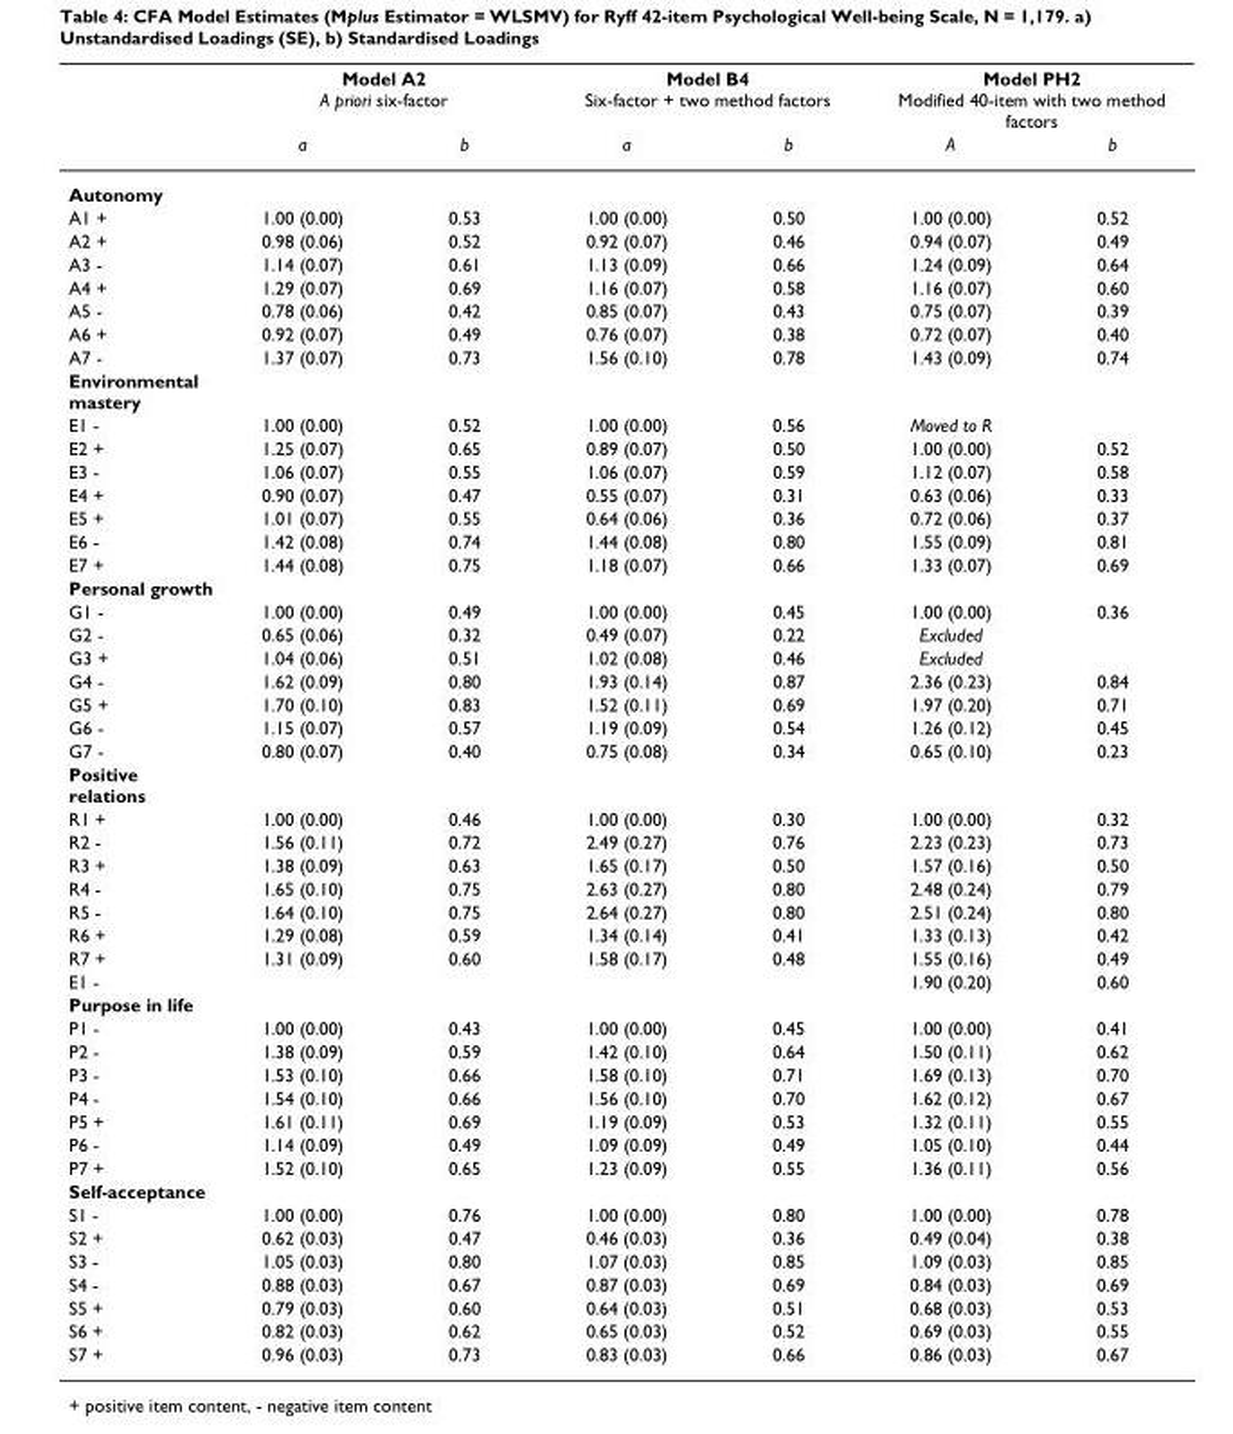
<table><thead><tr><td rowspan="2"></td><td colspan="2">Model A2 A priori six-factor</td><td colspan="2">Model B4 Six-factor + two method factors</td><td colspan="2">Model PH2 Modified 40-item with two method factors</td></tr><tr><td>a</td><td>b</td><td>a</td><td>b</td><td>A</td><td>b</td></tr></thead><tbody><tr><td colspan="7">Autonomy</td></tr><tr><td>A1 +</td><td>1.00 (0.00)</td><td>0.53</td><td>1.00 (0.00)</td><td>0.50</td><td>1.00 (0.00)</td><td>0.52</td></tr><tr><td>A2 +</td><td>0.98 (0.06)</td><td>0.52</td><td>0.92 (0.07)</td><td>0.46</td><td>0.94 (0.07)</td><td>0.49</td></tr><tr><td>A3 -</td><td>1.14 (0.07)</td><td>0.61</td><td>1.13 (0.09)</td><td>0.66</td><td>1.24 (0.09)</td><td>0.64</td></tr><tr><td>A4 +</td><td>1.29 (0.07)</td><td>0.69</td><td>1.16 (0.07)</td><td>0.58</td><td>1.16 (0.07)</td><td>0.60</td></tr><tr><td>A5 -</td><td>0.78 (0.06)</td><td>0.42</td><td>0.85 (0.07)</td><td>0.43</td><td>0.75 (0.07)</td><td>0.39</td></tr><tr><td>A6 +</td><td>0.92 (0.07)</td><td>0.49</td><td>0.76 (0.07)</td><td>0.38</td><td>0.72 (0.07)</td><td>0.40</td></tr><tr><td>A7 -</td><td>1.37 (0.07)</td><td>0.73</td><td>1.56 (0.10)</td><td>0.78</td><td>1.43 (0.09)</td><td>0.74</td></tr><tr><td colspan="7">Environmental mastery</td></tr><tr><td>E1 -</td><td>1.00 (0.00)</td><td>0.52</td><td>1.00 (0.00)</td><td>0.56</td><td>Moved to R</td><td></td></tr><tr><td>E2 +</td><td>1.25 (0.07)</td><td>0.65</td><td>0.89 (0.07)</td><td>0.50</td><td>1.00 (0.00)</td><td>0.52</td></tr><tr><td>E3 -</td><td>1.06 (0.07)</td><td>0.55</td><td>1.06 (0.07)</td><td>0.59</td><td>1.12 (0.07)</td><td>0.58</td></tr><tr><td>E4 +</td><td>0.90 (0.07)</td><td>0.47</td><td>0.55 (0.07)</td><td>0.31</td><td>0.63 (0.06)</td><td>0.33</td></tr><tr><td>E5 +</td><td>1.01 (0.07)</td><td>0.55</td><td>0.64 (0.06)</td><td>0.36</td><td>0.72 (0.06)</td><td>0.37</td></tr><tr><td>E6 -</td><td>1.42 (0.08)</td><td>0.74</td><td>1.44 (0.08)</td><td>0.80</td><td>1.55 (0.09)</td><td>0.81</td></tr><tr><td>E7 +</td><td>1.44 (0.08)</td><td>0.75</td><td>1.18 (0.07)</td><td>0.66</td><td>1.33 (0.07)</td><td>0.69</td></tr><tr><td colspan="7">Personal growth</td></tr><tr><td>G1 -</td><td>1.00 (0.00)</td><td>0.49</td><td>1.00 (0.00)</td><td>0.45</td><td>1.00 (0.00)</td><td>0.36</td></tr><tr><td>G2 -</td><td>0.65 (0.06)</td><td>0.32</td><td>0.49 (0.07)</td><td>0.22</td><td>Excluded</td><td></td></tr><tr><td>G3 +</td><td>1.04 (0.06)</td><td>0.51</td><td>1.02 (0.08)</td><td>0.46</td><td>Excluded</td><td></td></tr><tr><td>G4 -</td><td>1.62 (0.09)</td><td>0.80</td><td>1.93 (0.14)</td><td>0.87</td><td>2.36 (0.23)</td><td>0.84</td></tr><tr><td>G5 +</td><td>1.70 (0.10)</td><td>0.83</td><td>1.52 (0.11)</td><td>0.69</td><td>1.97 (0.20)</td><td>0.71</td></tr><tr><td>G6 -</td><td>1.15 (0.07)</td><td>0.57</td><td>1.19 (0.09)</td><td>0.54</td><td>1.26 (0.12)</td><td>0.45</td></tr><tr><td>G7 -</td><td>0.80 (0.07)</td><td>0.40</td><td>0.75 (0.08)</td><td>0.34</td><td>0.65 (0.10)</td><td>0.23</td></tr><tr><td colspan="7">Positive relations</td></tr><tr><td>R1 +</td><td>1.00 (0.00)</td><td>0.46</td><td>1.00 (0.00)</td><td>0.30</td><td>1.00 (0.00)</td><td>0.32</td></tr><tr><td>R2 -</td><td>1.56 (0.11)</td><td>0.72</td><td>2.49 (0.27)</td><td>0.76</td><td>2.23 (0.23)</td><td>0.73</td></tr><tr><td>R3 +</td><td>1.38 (0.09)</td><td>0.63</td><td>1.65 (0.17)</td><td>0.50</td><td>1.57 (0.16)</td><td>0.50</td></tr><tr><td>R4 -</td><td>1.65 (0.10)</td><td>0.75</td><td>2.63 (0.27)</td><td>0.80</td><td>2.48 (0.24)</td><td>0.79</td></tr><tr><td>R5 -</td><td>1.64 (0.10)</td><td>0.75</td><td>2.64 (0.27)</td><td>0.80</td><td>2.51 (0.24)</td><td>0.80</td></tr><tr><td>R6 +</td><td>1.29 (0.08)</td><td>0.59</td><td>1.34 (0.14)</td><td>0.41</td><td>1.33 (0.13)</td><td>0.42</td></tr><tr><td>R7 +</td><td>1.31 (0.09)</td><td>0.60</td><td>1.58 (0.17)</td><td>0.48</td><td>1.55 (0.16)</td><td>0.49</td></tr><tr><td>E1 -</td><td></td><td></td><td></td><td></td><td>1.90 (0.20)</td><td>0.60</td></tr><tr><td colspan="7">Purpose in life</td></tr><tr><td>P1 -</td><td>1.00 (0.00)</td><td>0.43</td><td>1.00 (0.00)</td><td>0.45</td><td>1.00 (0.00)</td><td>0.41</td></tr><tr><td>P2 -</td><td>1.38 (0.09)</td><td>0.59</td><td>1.42 (0.10)</td><td>0.64</td><td>1.50 (0.11)</td><td>0.62</td></tr><tr><td>P3 -</td><td>1.53 (0.10)</td><td>0.66</td><td>1.58 (0.10)</td><td>0.71</td><td>1.69 (0.13)</td><td>0.70</td></tr><tr><td>P4 -</td><td>1.54 (0.10)</td><td>0.66</td><td>1.56 (0.10)</td><td>0.70</td><td>1.62 (0.12)</td><td>0.67</td></tr><tr><td>P5 +</td><td>1.61 (0.11)</td><td>0.69</td><td>1.19 (0.09)</td><td>0.53</td><td>1.32 (0.11)</td><td>0.55</td></tr><tr><td>P6 -</td><td>1.14 (0.09)</td><td>0.49</td><td>1.09 (0.09)</td><td>0.49</td><td>1.05 (0.10)</td><td>0.44</td></tr><tr><td>P7 +</td><td>1.52 (0.10)</td><td>0.65</td><td>1.23 (0.09)</td><td>0.55</td><td>1.36 (0.11)</td><td>0.56</td></tr><tr><td colspan="7">Self-acceptance</td></tr><tr><td>S1 -</td><td>1.00 (0.00)</td><td>0.76</td><td>1.00 (0.00)</td><td>0.80</td><td>1.00 (0.00)</td><td>0.78</td></tr><tr><td>S2 +</td><td>0.62 (0.03)</td><td>0.47</td><td>0.46 (0.03)</td><td>0.36</td><td>0.49 (0.04)</td><td>0.38</td></tr><tr><td>S3 -</td><td>1.05 (0.03)</td><td>0.80</td><td>1.07 (0.03)</td><td>0.85</td><td>1.09 (0.03)</td><td>0.85</td></tr><tr><td>S4 -</td><td>0.88 (0.03)</td><td>0.67</td><td>0.87 (0.03)</td><td>0.69</td><td>0.84 (0.03)</td><td>0.69</td></tr><tr><td>S5 +</td><td>0.79 (0.03)</td><td>0.60</td><td>0.64 (0.03)</td><td>0.51</td><td>0.68 (0.03)</td><td>0.53</td></tr><tr><td>S6 +</td><td>0.82 (0.03)</td><td>0.62</td><td>0.65 (0.03)</td><td>0.52</td><td>0.69 (0.03)</td><td>0.55</td></tr><tr><td>S7 +</td><td>0.96 (0.03)</td><td>0.73</td><td>0.83 (0.03)</td><td>0.66</td><td>0.86 (0.03)</td><td>0.67</td></tr></tbody></table>